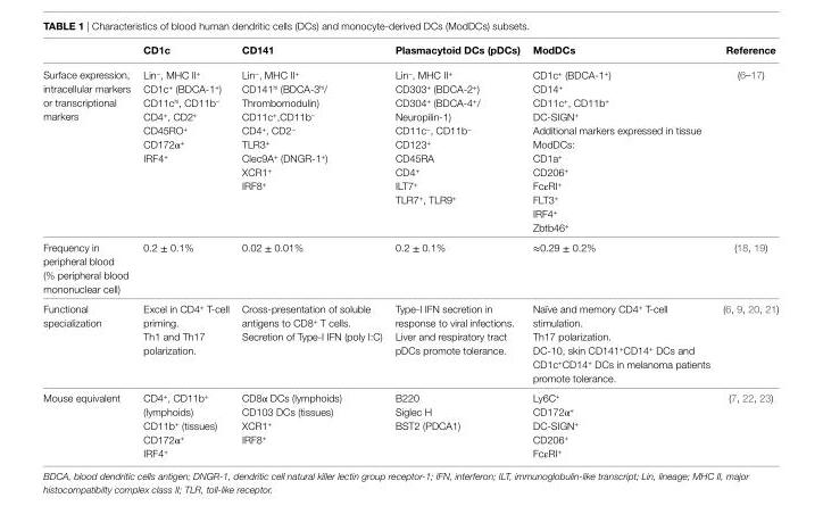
<table><thead><tr><td></td><td>CD1c</td><td>CD141</td><td>Plasmacytoid DCs (pDCs)</td><td>ModDCs</td><td>Reference</td></tr></thead><tbody><tr><td>Surface expression, intracellular markers or transcriptional markers</td><td>Lin<sup>−</sup>, MHC II<sup>+</sup> CD1c<sup>+</sup> (BDCA-1<sup>+</sup>) CD11c<sup>hi</sup>, CD11b<sup>−</sup> CD4<sup>+</sup>, CD2<sup>+</sup> CD45RO<sup>+</sup> CD172α<sup>+</sup> IRF4<sup>+</sup></td><td>Lin<sup>−</sup>, MHC II<sup>+</sup> CD141<sup>hi</sup> (BDCA-3<sup>hi</sup>/ Thrombomodulin) CD11c<sup>+</sup>,CD11b<sup>−</sup> CD4<sup>+</sup>, CD2<sup>−</sup> TLR3<sup>+</sup> Clec9A<sup>+</sup> (DNGR-1<sup>+</sup>) XCR1<sup>+</sup> IRF8<sup>+</sup></td><td>Lin<sup>−</sup>, MHC II<sup>+</sup> CD303<sup>+</sup> (BDCA-2<sup>+</sup>) CD304<sup>+</sup> (BDCA-4<sup>+</sup>/ Neuropilin-1) CD11c<sup>−</sup>, CD11b<sup>−</sup> CD123<sup>+</sup> CD45RA CD4<sup>+</sup> ILT7<sup>+</sup> TLR7<sup>+</sup>, TLR9<sup>+</sup></td><td>CD1c<sup>+</sup> (BDCA-1<sup>+</sup>) CD14<sup>+</sup> CD11c<sup>+</sup>, CD11b<sup>+</sup> DC-SIGN<sup>+</sup> Additional markers expressed in tissue ModDCs: CD1a<sup>+</sup> CD206<sup>+</sup> FcεRI<sup>+</sup> FLT3<sup>+</sup> IRF4<sup>+</sup> Zbtb46<sup>+</sup></td><td>(6–17)</td></tr><tr><td>Frequency in peripheral blood (% peripheral blood mononuclear cell)</td><td>0.2 ± 0.1%</td><td>0.02 ± 0.01%</td><td>0.2 ± 0.1%</td><td>≈0.29 ± 0.2%</td><td>(18, 19)</td></tr><tr><td>Functional specialization</td><td>Excel in CD4<sup>+</sup> T-cell priming. Th1 and Th17 polarization.</td><td>Cross-presentation of soluble antigens to CD8<sup>+</sup> T cells. Secretion of Type-I IFN (poly I:C)</td><td>Type-I IFN secretion in response to viral infections. Liver and respiratory tract pDCs promote tolerance.</td><td>Naïve and memory CD4<sup>+</sup> T-cell stimulation. Th17 polarization. DC-10, skin CD141<sup>+</sup>CD14<sup>+</sup> DCs and CD1c<sup>+</sup>CD14<sup>+</sup> DCs in melanoma patients promote tolerance.</td><td>(6, 9, 20, 21)</td></tr><tr><td>Mouse equivalent</td><td>CD4<sup>+</sup>, CD11b<sup>+</sup> (lymphoids) CD11b<sup>+</sup> (tissues) CD172α<sup>+</sup> IRF4<sup>+</sup></td><td>CD8α DCs (lymphoids) CD103 DCs (tissues) XCR1<sup>+</sup> IRF8<sup>+</sup></td><td>B220 Siglec H BST2 (PDCA1)</td><td>Ly6C<sup>+</sup> CD172α<sup>+</sup> DC-SIGN<sup>+</sup> CD206<sup>+</sup> FcεRI<sup>+</sup></td><td>(7, 22, 23)</td></tr></tbody></table>